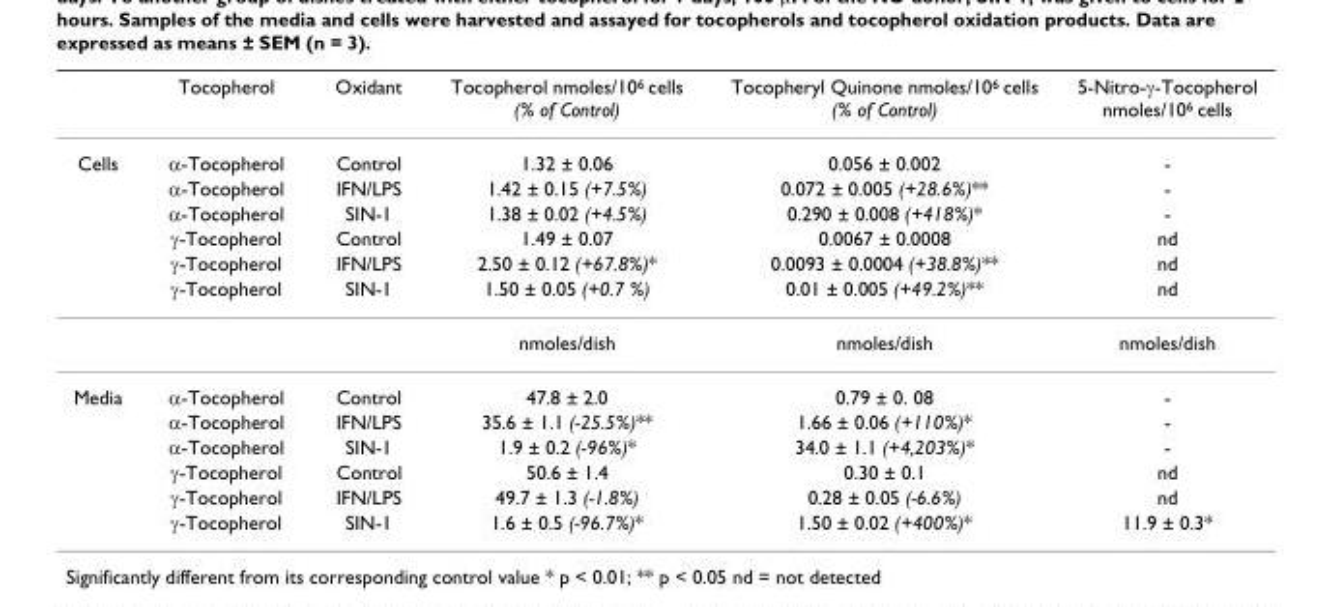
<table><thead><tr><td></td><td>Tocopherol</td><td>Oxidant</td><td>Tocopherol nmoles/10<sup>6</sup> cells (% of Control)</td><td>Tocopheryl Quinone nmoles/10<sup>6</sup> cells (% of Control)</td><td>5-Nitro-γ-Tocopherol nmoles/10<sup>6</sup> cells</td></tr></thead><tbody><tr><td rowspan="7">Cells</td><td>α-Tocopherol</td><td>Control</td><td>1.32 ± 0.06</td><td>0.056 ± 0.002</td><td>-</td></tr><tr><td>α-Tocopherol</td><td>IFN/LPS</td><td>1.42 ± 0.15 (+7.5%)</td><td>0.072 ± 0.005 (+28.6%)**</td><td>-</td></tr><tr><td>α-Tocopherol</td><td>SIN-1</td><td>1.38 ± 0.02 (+4.5%)</td><td>0.290 ± 0.008 (+418%)*</td><td>-</td></tr><tr><td>γ-Tocopherol</td><td>Control</td><td>1.49 ± 0.07</td><td>0.0067 ± 0.0008</td><td>nd</td></tr><tr><td>γ-Tocopherol</td><td>IFN/LPS</td><td>2.50 ± 0.12 (+67.8%)*</td><td>0.0093 ± 0.0004 (+38.8%)**</td><td>nd</td></tr><tr><td>γ-Tocopherol</td><td>SIN-1</td><td>1.50 ± 0.05 (+0.7 %)</td><td>0.01 ± 0.005 (+49.2%)**</td><td>nd</td></tr><tr><td></td><td></td><td>nmoles/dish</td><td>nmoles/dish</td><td>nmoles/dish</td></tr><tr><td rowspan="6">Media</td><td>α-Tocopherol</td><td>Control</td><td>47.8 ± 2.0</td><td>0.79 ± 0. 08</td><td>-</td></tr><tr><td>α-Tocopherol</td><td>IFN/LPS</td><td>35.6 ± 1.1 (-25.5%)**</td><td>1.66 ± 0.06 (+110%)*</td><td>-</td></tr><tr><td>α-Tocopherol</td><td>SIN-1</td><td>1.9 ± 0.2 (-96%)*</td><td>34.0 ± 1.1 (+4,203%)*</td><td>-</td></tr><tr><td>γ-Tocopherol</td><td>Control</td><td>50.6 ± 1.4</td><td>0.30 ± 0.1</td><td>nd</td></tr><tr><td>γ-Tocopherol</td><td>IFN/LPS</td><td>49.7 ± 1.3 (-1.8%)</td><td>0.28 ± 0.05 (-6.6%)</td><td>nd</td></tr><tr><td>γ-Tocopherol</td><td>SIN-1</td><td>1.6 ± 0.5 (-96.7%)*</td><td>1.50 ± 0.02 (+400%)*</td><td>11.9 ± 0.3*</td></tr></tbody></table>